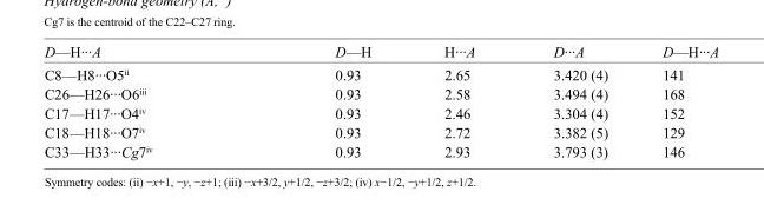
<table><tbody><tr><td>D—H···A</td><td>D—H</td><td>H···A</td><td>D···A</td><td>D—H···A</td></tr><tr><td>C8—H8···O5<sup>ii</sup></td><td>0.93</td><td>2.65</td><td>3.420 (4)</td><td>141</td></tr><tr><td>C26—H26···O6<sup>iii</sup></td><td>0.93</td><td>2.58</td><td>3.494 (4)</td><td>168</td></tr><tr><td>C17—H17···O4<sup>iv</sup></td><td>0.93</td><td>2.46</td><td>3.304 (4)</td><td>152</td></tr><tr><td>C18—H18···O7<sup>iv</sup></td><td>0.93</td><td>2.72</td><td>3.382 (5)</td><td>129</td></tr><tr><td>C33—H33···Cg7<sup>iv</sup></td><td>0.93</td><td>2.93</td><td>3.793 (3)</td><td>146</td></tr></tbody></table>